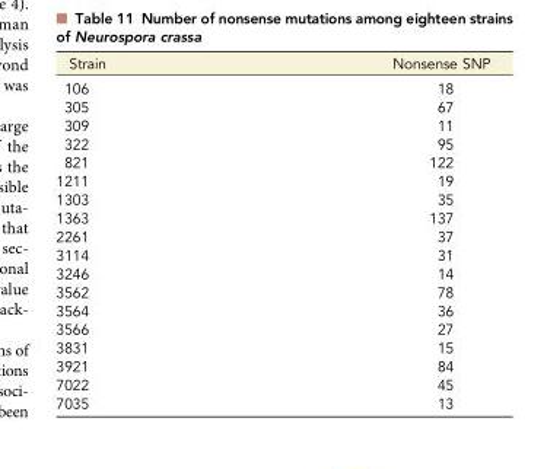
<table><thead><tr><td>Strain</td><td>Nonsense SNP</td></tr></thead><tbody><tr><td>106</td><td>18</td></tr><tr><td>305</td><td>67</td></tr><tr><td>309</td><td>11</td></tr><tr><td>322</td><td>95</td></tr><tr><td>821</td><td>122</td></tr><tr><td>1211</td><td>19</td></tr><tr><td>1303</td><td>35</td></tr><tr><td>1363</td><td>137</td></tr><tr><td>2261</td><td>37</td></tr><tr><td>3114</td><td>31</td></tr><tr><td>3246</td><td>14</td></tr><tr><td>3562</td><td>78</td></tr><tr><td>3564</td><td>36</td></tr><tr><td>3566</td><td>27</td></tr><tr><td>3831</td><td>15</td></tr><tr><td>3921</td><td>84</td></tr><tr><td>7022</td><td>45</td></tr><tr><td>7035</td><td>13</td></tr></tbody></table>